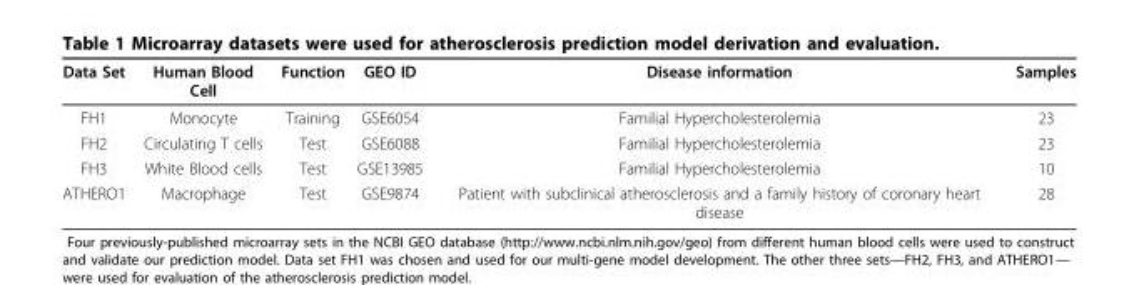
<table><thead><tr><td>Data Set</td><td>Human Blood Cell</td><td>Function</td><td>GEO ID</td><td>Disease information</td><td>Samples</td></tr></thead><tbody><tr><td>FH1</td><td>Monocyte</td><td>Training</td><td>GSE6054</td><td>Familial Hypercholesterolemia</td><td>23</td></tr><tr><td>FH2</td><td>Circulating T cells</td><td>Test</td><td>GSE6088</td><td>Familial Hypercholesterolemia</td><td>23</td></tr><tr><td>FH3</td><td>White Blood cells</td><td>Test</td><td>GSE13985</td><td>Familial Hypercholesterolemia</td><td>10</td></tr><tr><td>ATHERO1</td><td>Macrophage</td><td>Test</td><td>GSE9874</td><td>Patient with subclinical atherosclerosis and a family history of coronary heart disease</td><td>28</td></tr></tbody></table>